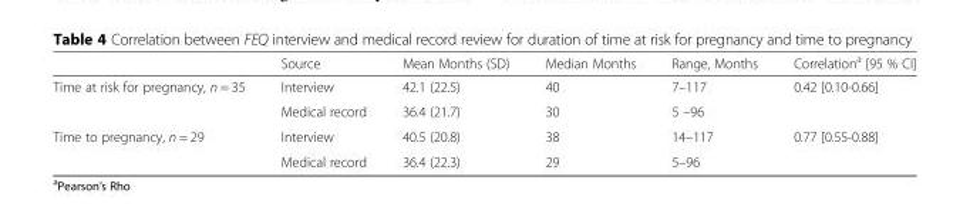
<table><thead><tr><td></td><td>Source</td><td>Mean Months (SD)</td><td>Median Months</td><td>Range, Months</td><td>Correlation<sup>a</sup> [95 % CI]</td></tr></thead><tbody><tr><td rowspan="2">Time at risk for pregnancy, n = 35</td><td>Interview</td><td>42.1 (22.5)</td><td>40</td><td>7–117</td><td>0.42 [0.10-0.66]</td></tr><tr><td>Medical record</td><td>36.4 (21.7)</td><td>30</td><td>5 –96</td><td></td></tr><tr><td rowspan="2">Time to pregnancy, n = 29</td><td>Interview</td><td>40.5 (20.8)</td><td>38</td><td>14–117</td><td>0.77 [0.55-0.88]</td></tr><tr><td>Medical record</td><td>36.4 (22.3)</td><td>29</td><td>5–96</td><td></td></tr></tbody></table>